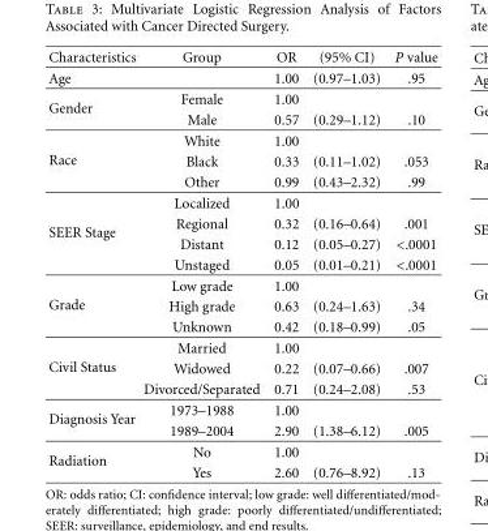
<table><thead><tr><td>Characteristics</td><td>Group</td><td>OR</td><td>(95% CI)</td><td>P value</td></tr></thead><tbody><tr><td>Age</td><td></td><td>1.00</td><td>(0.97–1.03)</td><td>.95</td></tr><tr><td rowspan="2">Gender</td><td>Female</td><td>1.00</td><td></td><td></td></tr><tr><td>Male</td><td>0.57</td><td>(0.29–1.12)</td><td>.10</td></tr><tr><td rowspan="3">Race</td><td>White</td><td>1.00</td><td></td><td></td></tr><tr><td>Black</td><td>0.33</td><td>(0.11–1.02)</td><td>.053</td></tr><tr><td>Other</td><td>0.99</td><td>(0.43–2.32)</td><td>.99</td></tr><tr><td rowspan="4">SEER Stage</td><td>Localized</td><td>1.00</td><td></td><td></td></tr><tr><td>Regional</td><td>0.32</td><td>(0.16–0.64)</td><td>.001</td></tr><tr><td>Distant</td><td>0.12</td><td>(0.05–0.27)</td><td>&lt;.0001</td></tr><tr><td>Unstaged</td><td>0.05</td><td>(0.01–0.21)</td><td>&lt;.0001</td></tr><tr><td rowspan="3">Grade</td><td>Low grade</td><td>1.00</td><td></td><td></td></tr><tr><td>High grade</td><td>0.63</td><td>(0.24–1.63)</td><td>.34</td></tr><tr><td>Unknown</td><td>0.42</td><td>(0.18–0.99)</td><td>.05</td></tr><tr><td rowspan="3">Civil Status</td><td>Married</td><td>1.00</td><td></td><td></td></tr><tr><td>Widowed</td><td>0.22</td><td>(0.07–0.66)</td><td>.007</td></tr><tr><td>Divorced/Separated</td><td>0.71</td><td>(0.24–2.08)</td><td>.53</td></tr><tr><td rowspan="2">Diagnosis Year</td><td>1973–1988</td><td>1.00</td><td></td><td></td></tr><tr><td>1989–2004</td><td>2.90</td><td>(1.38–6.12)</td><td>.005</td></tr><tr><td rowspan="2">Radiation</td><td>No</td><td>1.00</td><td></td><td></td></tr><tr><td>Yes</td><td>2.60</td><td>(0.76–8.92)</td><td>.13</td></tr></tbody></table>